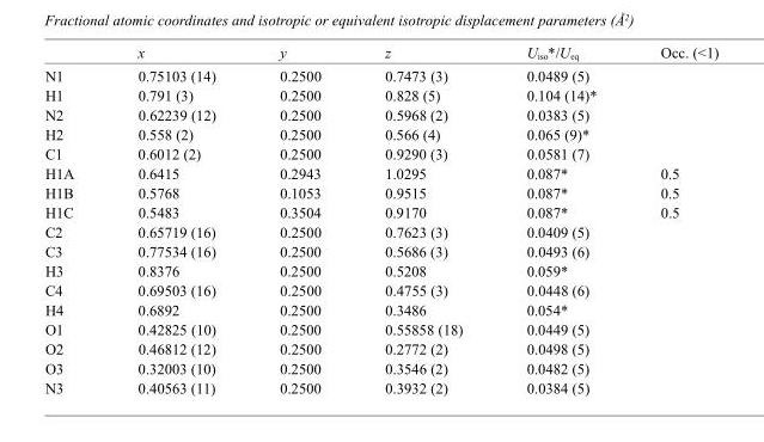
<table><thead><tr><td></td><td>x</td><td>y</td><td>z</td><td>U<sub>iso</sub>*/U<sub>eq</sub></td><td>Occ. (&lt;1)</td></tr></thead><tbody><tr><td>N1</td><td>0.75103 (14)</td><td>0.2500</td><td>0.7473 (3)</td><td>0.0489 (5)</td><td></td></tr><tr><td>H1</td><td>0.791 (3)</td><td>0.2500</td><td>0.828 (5)</td><td>0.104 (14)*</td><td></td></tr><tr><td>N2</td><td>0.62239 (12)</td><td>0.2500</td><td>0.5968 (2)</td><td>0.0383 (5)</td><td></td></tr><tr><td>H2</td><td>0.558 (2)</td><td>0.2500</td><td>0.566 (4)</td><td>0.065 (9)*</td><td></td></tr><tr><td>C1</td><td>0.6012 (2)</td><td>0.2500</td><td>0.9290 (3)</td><td>0.0581 (7)</td><td></td></tr><tr><td>H1A</td><td>0.6415</td><td>0.2943</td><td>1.0295</td><td>0.087*</td><td>0.5</td></tr><tr><td>H1B</td><td>0.5768</td><td>0.1053</td><td>0.9515</td><td>0.087*</td><td>0.5</td></tr><tr><td>H1C</td><td>0.5483</td><td>0.3504</td><td>0.9170</td><td>0.087*</td><td>0.5</td></tr><tr><td>C2</td><td>0.65719 (16)</td><td>0.2500</td><td>0.7623 (3)</td><td>0.0409 (5)</td><td></td></tr><tr><td>C3</td><td>0.77534 (16)</td><td>0.2500</td><td>0.5686 (3)</td><td>0.0493 (6)</td><td></td></tr><tr><td>H3</td><td>0.8376</td><td>0.2500</td><td>0.5208</td><td>0.059*</td><td></td></tr><tr><td>C4</td><td>0.69503 (16)</td><td>0.2500</td><td>0.4755 (3)</td><td>0.0448 (6)</td><td></td></tr><tr><td>H4</td><td>0.6892</td><td>0.2500</td><td>0.3486</td><td>0.054*</td><td></td></tr><tr><td>O1</td><td>0.42825 (10)</td><td>0.2500</td><td>0.55858 (18)</td><td>0.0449 (5)</td><td></td></tr><tr><td>O2</td><td>0.46812 (12)</td><td>0.2500</td><td>0.2772 (2)</td><td>0.0498 (5)</td><td></td></tr><tr><td>O3</td><td>0.32003 (10)</td><td>0.2500</td><td>0.3546 (2)</td><td>0.0482 (5)</td><td></td></tr><tr><td>N3</td><td>0.40563 (11)</td><td>0.2500</td><td>0.3932 (2)</td><td>0.0384 (5)</td><td></td></tr></tbody></table>